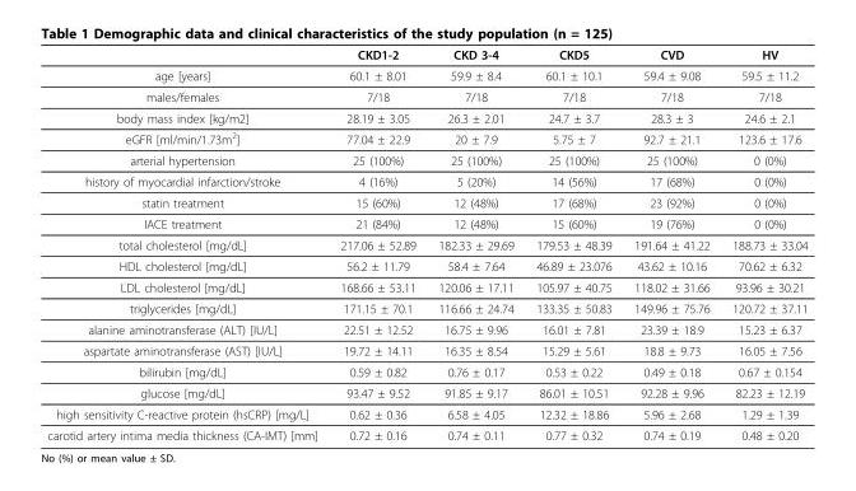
<table><thead><tr><td></td><td>CKD1-2</td><td>CKD 3-4</td><td>CKD5</td><td>CVD</td><td>HV</td></tr></thead><tbody><tr><td>age [years]</td><td>60.1 ± 8.01</td><td>59.9 ± 8.4</td><td>60.1 ± 10.1</td><td>59.4 ± 9.08</td><td>59.5 ± 11.2</td></tr><tr><td>males/females</td><td>7/18</td><td>7/18</td><td>7/18</td><td>7/18</td><td>7/18</td></tr><tr><td>body mass index [kg/m2]</td><td>28.19 ± 3.05</td><td>26.3 ± 2.01</td><td>24.7 ± 3.7</td><td>28.3 ± 3</td><td>24.6 ± 2.1</td></tr><tr><td>eGFR [ml/min/1.73m<sup>2</sup>]</td><td>77.04 ± 22.9</td><td>20 ± 7.9</td><td>5.75 ± 7</td><td>92.7 ± 21.1</td><td>123.6 ± 17.6</td></tr><tr><td>arterial hypertension</td><td>25 (100%)</td><td>25 (100%)</td><td>25 (100%)</td><td>25 (100%)</td><td>0 (0%)</td></tr><tr><td>history of myocardial infarction/stroke</td><td>4 (16%)</td><td>5 (20%)</td><td>14 (56%)</td><td>17 (68%)</td><td>0 (0%)</td></tr><tr><td>statin treatment</td><td>15 (60%)</td><td>12 (48%)</td><td>17 (68%)</td><td>23 (92%)</td><td>0 (0%)</td></tr><tr><td>IACE treatment</td><td>21 (84%)</td><td>12 (48%)</td><td>15 (60%)</td><td>19 (76%)</td><td>0 (0%)</td></tr><tr><td>total cholesterol [mg/dL]</td><td>217.06 ± 52.89</td><td>182.33 ± 29.69</td><td>179.53 ± 48.39</td><td>191.64 ± 41.22</td><td>188.73 ± 33.04</td></tr><tr><td>HDL cholesterol [mg/dL]</td><td>56.2 ± 11.79</td><td>58.4 ± 7.64</td><td>46.89 ± 23.076</td><td>43.62 ± 10.16</td><td>70.62 ± 6.32</td></tr><tr><td>LDL cholesterol [mg/dL]</td><td>168.66 ± 53.11</td><td>120.06 ± 17.11</td><td>105.97 ± 40.75</td><td>118.02 ± 31.66</td><td>93.96 ± 30.21</td></tr><tr><td>triglycerides [mg/dL]</td><td>171.15 ± 70.1</td><td>116.66 ± 24.74</td><td>133.35 ± 50.83</td><td>149.96 ± 75.76</td><td>120.72 ± 37.11</td></tr><tr><td>alanine aminotransferase (ALT) [IU/L]</td><td>22.51 ± 12.52</td><td>16.75 ± 9.96</td><td>16.01 ± 7.81</td><td>23.39 ± 18.9</td><td>15.23 ± 6.37</td></tr><tr><td>aspartate aminotransferase (AST) [IU/L]</td><td>19.72 ± 14.11</td><td>16.35 ± 8.54</td><td>15.29 ± 5.61</td><td>18.8 ± 9.73</td><td>16.05 ± 7.56</td></tr><tr><td>bilirubin [mg/dL]</td><td>0.59 ± 0.82</td><td>0.76 ± 0.17</td><td>0.53 ± 0.22</td><td>0.49 ± 0.18</td><td>0.67 ± 0.154</td></tr><tr><td>glucose [mg/dL]</td><td>93.47 ± 9.52</td><td>91.85 ± 9.17</td><td>86.01 ± 10.51</td><td>92.28 ± 9.96</td><td>82.23 ± 12.19</td></tr><tr><td>high sensitivity C-reactive protein (hsCRP) [mg/L]</td><td>0.62 ± 0.36</td><td>6.58 ± 4.05</td><td>12.32 ± 18.86</td><td>5.96 ± 2.68</td><td>1.29 ± 1.39</td></tr><tr><td>carotid artery intima media thickness (CA-IMT) [mm]</td><td>0.72 ± 0.16</td><td>0.74 ± 0.11</td><td>0.77 ± 0.32</td><td>0.74 ± 0.19</td><td>0.48 ± 0.20</td></tr></tbody></table>